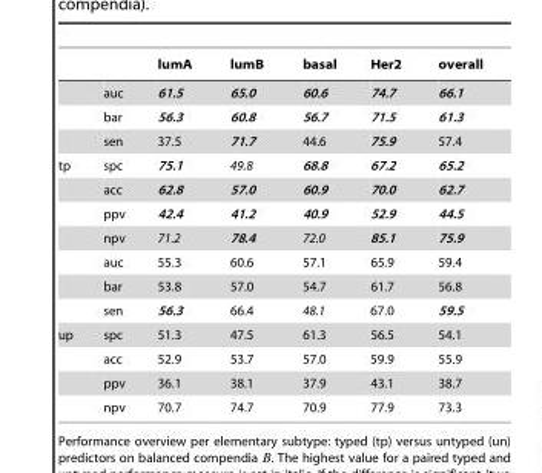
<table><thead><tr><td></td><td></td><td>lumA</td><td>lumB</td><td>basal</td><td>Her2</td><td>overall</td></tr></thead><tbody><tr><td></td><td>auc</td><td>61.5</td><td>65.0</td><td>60.6</td><td>74.7</td><td>66.1</td></tr><tr><td></td><td>bar</td><td>56.3</td><td>60.8</td><td>56.7</td><td>71.5</td><td>61.3</td></tr><tr><td></td><td>sen</td><td>37.5</td><td>71.7</td><td>44.6</td><td>75.9</td><td>57.4</td></tr><tr><td rowspan="7">tp</td><td>spc</td><td>75.1</td><td>49.8</td><td>68.8</td><td>67.2</td><td>65.2</td></tr><tr><td>acc</td><td>62.8</td><td>57.0</td><td>60.9</td><td>70.0</td><td>62.7</td></tr><tr><td>ppv</td><td>42.4</td><td>41.2</td><td>40.9</td><td>52.9</td><td>44.5</td></tr><tr><td>npv</td><td>71.2</td><td>78.4</td><td>72.0</td><td>85.1</td><td>75.9</td></tr><tr><td>auc</td><td>55.3</td><td>60.6</td><td>57.1</td><td>65.9</td><td>59.4</td></tr><tr><td>bar</td><td>53.8</td><td>57.0</td><td>54.7</td><td>61.7</td><td>56.8</td></tr><tr><td>sen</td><td>56.3</td><td>66.4</td><td>48.1</td><td>67.0</td><td>59.5</td></tr><tr><td rowspan="4">up</td><td>spc</td><td>51.3</td><td>47.5</td><td>61.3</td><td>56.5</td><td>54.1</td></tr><tr><td>acc</td><td>52.9</td><td>53.7</td><td>57.0</td><td>59.9</td><td>55.9</td></tr><tr><td>ppv</td><td>36.1</td><td>38.1</td><td>37.9</td><td>43.1</td><td>38.7</td></tr><tr><td>npv</td><td>70.7</td><td>74.7</td><td>70.9</td><td>77.9</td><td>73.3</td></tr></tbody></table>